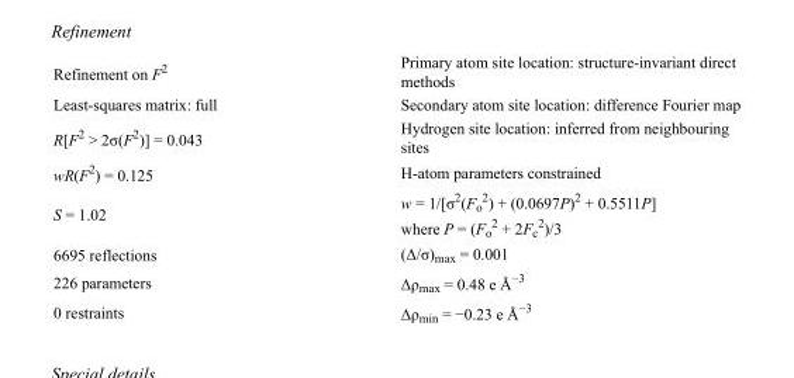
<table><tbody><tr><td>Refinement on F<sup>2</sup></td><td>Primary atom site location: structure-invariant direct methods</td></tr><tr><td>Least-squares matrix: full</td><td>Secondary atom site location: difference Fourier map</td></tr><tr><td>R[F<sup>2</sup> &gt; 2σ(F<sup>2</sup>)] = 0.043</td><td>Hydrogen site location: inferred from neighbouring sites</td></tr><tr><td>wR(F<sup>2</sup>) = 0.125</td><td>H-atom parameters constrained</td></tr><tr><td>S = 1.02</td><td>w = 1/[σ<sup>2</sup>(F<sub>o</sub> <sup>2</sup>) + (0.0697P)<sup>2</sup> + 0.5511P] where P = (F<sub>o</sub> <sup>2</sup> + 2F<sub>c</sub> <sup>2</sup>)/3</td></tr><tr><td>6695 reflections</td><td>(Δ/σ)<sub>max</sub> = 0.001</td></tr><tr><td>226 parameters</td><td>Δρ<sub>max</sub> = 0.48 e Å<sup>−3</sup></td></tr><tr><td>0 restraints</td><td>Δρ<sub>min</sub> = −0.23 e Å<sup>−3</sup></td></tr></tbody></table>